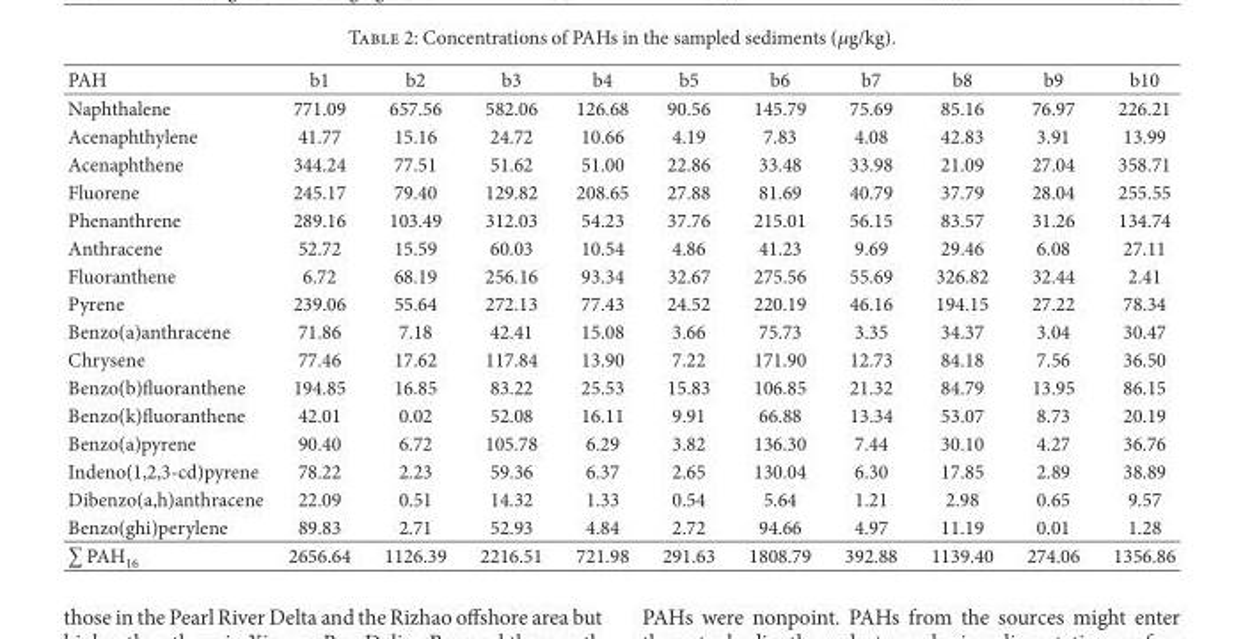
<table><thead><tr><td>PAH</td><td>b1</td><td>b2</td><td>b3</td><td>b4</td><td>b5</td><td>b6</td><td>b7</td><td>b8</td><td>b9</td><td>b10</td></tr></thead><tbody><tr><td>Naphthalene</td><td>771.09</td><td>657.56</td><td>582.06</td><td>126.68</td><td>90.56</td><td>145.79</td><td>75.69</td><td>85.16</td><td>76.97</td><td>226.21</td></tr><tr><td>Acenaphthylene</td><td>41.77</td><td>15.16</td><td>24.72</td><td>10.66</td><td>4.19</td><td>7.83</td><td>4.08</td><td>42.83</td><td>3.91</td><td>13.99</td></tr><tr><td>Acenaphthene</td><td>344.24</td><td>77.51</td><td>51.62</td><td>51.00</td><td>22.86</td><td>33.48</td><td>33.98</td><td>21.09</td><td>27.04</td><td>358.71</td></tr><tr><td>Fluorene</td><td>245.17</td><td>79.40</td><td>129.82</td><td>208.65</td><td>27.88</td><td>81.69</td><td>40.79</td><td>37.79</td><td>28.04</td><td>255.55</td></tr><tr><td>Phenanthrene</td><td>289.16</td><td>103.49</td><td>312.03</td><td>54.23</td><td>37.76</td><td>215.01</td><td>56.15</td><td>83.57</td><td>31.26</td><td>134.74</td></tr><tr><td>Anthracene</td><td>52.72</td><td>15.59</td><td>60.03</td><td>10.54</td><td>4.86</td><td>41.23</td><td>9.69</td><td>29.46</td><td>6.08</td><td>27.11</td></tr><tr><td>Fluoranthene</td><td>6.72</td><td>68.19</td><td>256.16</td><td>93.34</td><td>32.67</td><td>275.56</td><td>55.69</td><td>326.82</td><td>32.44</td><td>2.41</td></tr><tr><td>Pyrene</td><td>239.06</td><td>55.64</td><td>272.13</td><td>77.43</td><td>24.52</td><td>220.19</td><td>46.16</td><td>194.15</td><td>27.22</td><td>78.34</td></tr><tr><td>Benzo(a)anthracene</td><td>71.86</td><td>7.18</td><td>42.41</td><td>15.08</td><td>3.66</td><td>75.73</td><td>3.35</td><td>34.37</td><td>3.04</td><td>30.47</td></tr><tr><td>Chrysene</td><td>77.46</td><td>17.62</td><td>117.84</td><td>13.90</td><td>7.22</td><td>171.90</td><td>12.73</td><td>84.18</td><td>7.56</td><td>36.50</td></tr><tr><td>Benzo(b)�uoranthene</td><td>194.85</td><td>16.85</td><td>83.22</td><td>25.53</td><td>15.83</td><td>106.85</td><td>21.32</td><td>84.79</td><td>13.95</td><td>86.15</td></tr><tr><td>Benzo(k)�uoranthene</td><td>42.01</td><td>0.02</td><td>52.08</td><td>16.11</td><td>9.91</td><td>66.88</td><td>13.34</td><td>53.07</td><td>8.73</td><td>20.19</td></tr><tr><td>Benzo(a)pyrene</td><td>90.40</td><td>6.72</td><td>105.78</td><td>6.29</td><td>3.82</td><td>136.30</td><td>7.44</td><td>30.10</td><td>4.27</td><td>36.76</td></tr><tr><td>Indeno(1,2,3-cd)pyrene</td><td>78.22</td><td>2.23</td><td>59.36</td><td>6.37</td><td>2.65</td><td>130.04</td><td>6.30</td><td>17.85</td><td>2.89</td><td>38.89</td></tr><tr><td>Dibenzo(a,h)anthracene</td><td>22.09</td><td>0.51</td><td>14.32</td><td>1.33</td><td>0.54</td><td>5.64</td><td>1.21</td><td>2.98</td><td>0.65</td><td>9.57</td></tr><tr><td>Benzo(ghi)perylene</td><td>89.83</td><td>2.71</td><td>52.93</td><td>4.84</td><td>2.72</td><td>94.66</td><td>4.97</td><td>11.19</td><td>0.01</td><td>1.28</td></tr><tr><td>∑ PAH<sub>16</sub></td><td>2656.64</td><td>1126.39</td><td>2216.51</td><td>721.98</td><td>291.63</td><td>1808.79</td><td>392.88</td><td>1139.40</td><td>274.06</td><td>1356.86</td></tr></tbody></table>